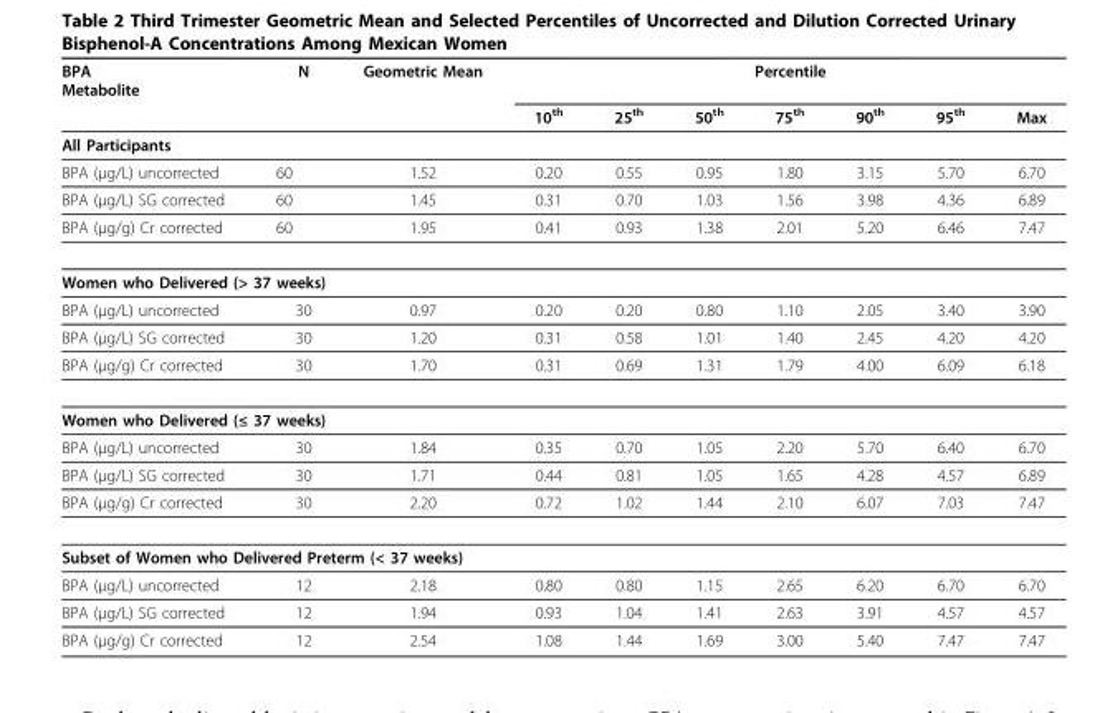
<table><thead><tr><td rowspan="2">BPA Metabolite</td><td rowspan="2">N</td><td rowspan="2">Geometric Mean</td><td colspan="7">Percentile</td></tr><tr><td>10th</td><td>25th</td><td>50th</td><td>75th</td><td>90th</td><td>95th</td><td>Max</td></tr></thead><tbody><tr><td colspan="10">All Participants</td></tr><tr><td>BPA (μg/L) uncorrected</td><td>60</td><td>1.52</td><td>0.20</td><td>0.55</td><td>0.95</td><td>1.80</td><td>3.15</td><td>5.70</td><td>6.70</td></tr><tr><td>BPA (μg/L) SG corrected</td><td>60</td><td>1.45</td><td>0.31</td><td>0.70</td><td>1.03</td><td>1.56</td><td>3.98</td><td>4.36</td><td>6.89</td></tr><tr><td>BPA (μg/g) Cr corrected</td><td>60</td><td>1.95</td><td>0.41</td><td>0.93</td><td>1.38</td><td>2.01</td><td>5.20</td><td>6.46</td><td>7.47</td></tr><tr><td colspan="10">Women who Delivered (&gt; 37 weeks)</td></tr><tr><td>BPA (μg/L) uncorrected</td><td>30</td><td>0.97</td><td>0.20</td><td>0.20</td><td>0.80</td><td>1.10</td><td>2.05</td><td>3.40</td><td>3.90</td></tr><tr><td>BPA (μg/L) SG corrected</td><td>30</td><td>1.20</td><td>0.31</td><td>0.58</td><td>1.01</td><td>1.40</td><td>2.45</td><td>4.20</td><td>4.20</td></tr><tr><td>BPA (μg/g) Cr corrected</td><td>30</td><td>1.70</td><td>0.31</td><td>0.69</td><td>1.31</td><td>1.79</td><td>4.00</td><td>6.09</td><td>6.18</td></tr><tr><td colspan="10">Women who Delivered (≤ 37 weeks)</td></tr><tr><td>BPA (μg/L) uncorrected</td><td>30</td><td>1.84</td><td>0.35</td><td>0.70</td><td>1.05</td><td>2.20</td><td>5.70</td><td>6.40</td><td>6.70</td></tr><tr><td>BPA (μg/L) SG corrected</td><td>30</td><td>1.71</td><td>0.44</td><td>0.81</td><td>1.05</td><td>1.65</td><td>4.28</td><td>4.57</td><td>6.89</td></tr><tr><td>BPA (μg/g) Cr corrected</td><td>30</td><td>2.20</td><td>0.72</td><td>1.02</td><td>1.44</td><td>2.10</td><td>6.07</td><td>7.03</td><td>7.47</td></tr><tr><td colspan="10">Subset of Women who Delivered Preterm (&lt; 37 weeks)</td></tr><tr><td>BPA (μg/L) uncorrected</td><td>12</td><td>2.18</td><td>0.80</td><td>0.80</td><td>1.15</td><td>2.65</td><td>6.20</td><td>6.70</td><td>6.70</td></tr><tr><td>BPA (μg/L) SG corrected</td><td>12</td><td>1.94</td><td>0.93</td><td>1.04</td><td>1.41</td><td>2.63</td><td>3.91</td><td>4.57</td><td>4.57</td></tr><tr><td>BPA (μg/g) Cr corrected</td><td>12</td><td>2.54</td><td>1.08</td><td>1.44</td><td>1.69</td><td>3.00</td><td>5.40</td><td>7.47</td><td>7.47</td></tr></tbody></table>